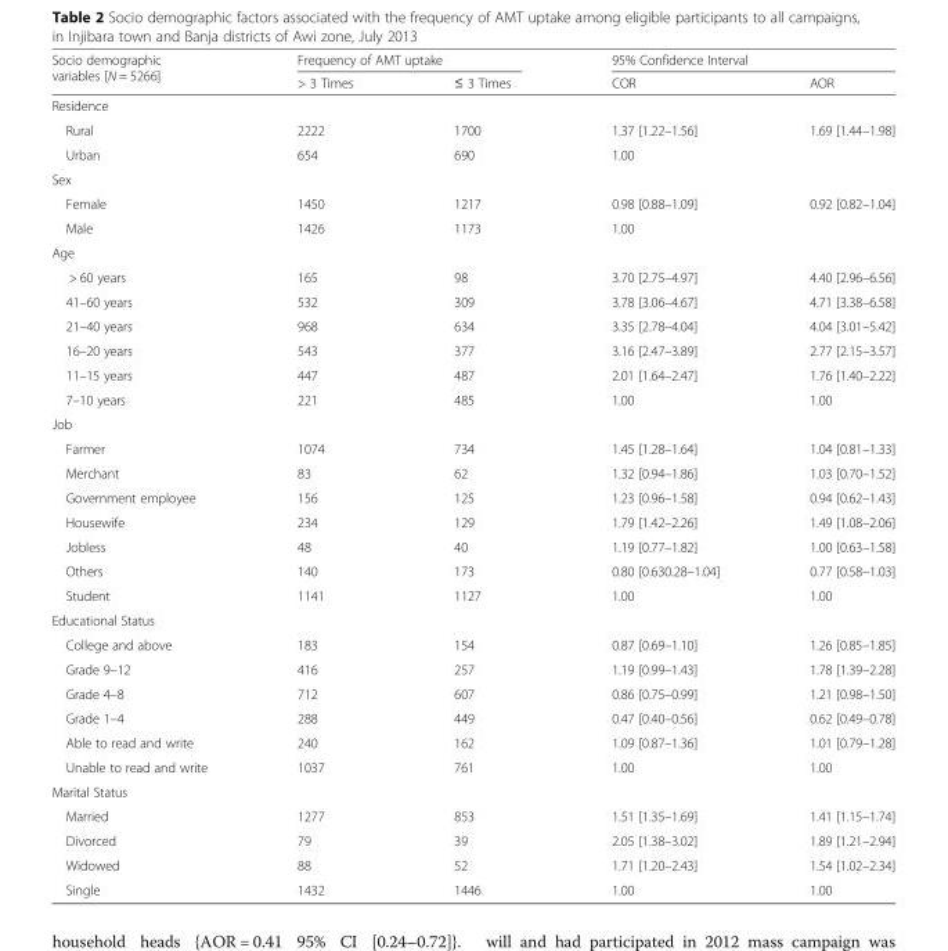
<table><thead><tr><td rowspan="2">Socio demographic variables [N = 5266]</td><td colspan="2">Frequency of AMT uptake</td><td colspan="2">95% Confidence Interval</td></tr><tr><td>&gt; 3 Times</td><td>≤ 3 Times</td><td>COR</td><td>AOR</td></tr></thead><tbody><tr><td colspan="5">Residence</td></tr><tr><td>Rural</td><td>2222</td><td>1700</td><td>1.37 [1.22–1.56]</td><td>1.69 [1.44–1.98]</td></tr><tr><td>Urban</td><td>654</td><td>690</td><td>1.00</td><td></td></tr><tr><td colspan="5">Sex</td></tr><tr><td>Female</td><td>1450</td><td>1217</td><td>0.98 [0.88–1.09]</td><td>0.92 [0.82–1.04]</td></tr><tr><td>Male</td><td>1426</td><td>1173</td><td>1.00</td><td></td></tr><tr><td colspan="5">Age</td></tr><tr><td>&gt; 60 years</td><td>165</td><td>98</td><td>3.70 [2.75–4.97]</td><td>4.40 [2.96–6.56]</td></tr><tr><td>41–60 years</td><td>532</td><td>309</td><td>3.78 [3.06–4.67]</td><td>4.71 [3.38–6.58]</td></tr><tr><td>21–40 years</td><td>968</td><td>634</td><td>3.35 [2.78–4.04]</td><td>4.04 [3.01–5.42]</td></tr><tr><td>16–20 years</td><td>543</td><td>377</td><td>3.16 [2.47–3.89]</td><td>2.77 [2.15–3.57]</td></tr><tr><td>11–15 years</td><td>447</td><td>487</td><td>2.01 [1.64–2.47]</td><td>1.76 [1.40–2.22]</td></tr><tr><td>7–10 years</td><td>221</td><td>485</td><td>1.00</td><td>1.00</td></tr><tr><td colspan="5">Job</td></tr><tr><td>Farmer</td><td>1074</td><td>734</td><td>1.45 [1.28–1.64]</td><td>1.04 [0.81–1.33]</td></tr><tr><td>Merchant</td><td>83</td><td>62</td><td>1.32 [0.94–1.86]</td><td>1.03 [0.70–1.52]</td></tr><tr><td>Government employee</td><td>156</td><td>125</td><td>1.23 [0.96–1.58]</td><td>0.94 [0.62–1.43]</td></tr><tr><td>Housewife</td><td>234</td><td>129</td><td>1.79 [1.42–2.26]</td><td>1.49 [1.08–2.06]</td></tr><tr><td>Jobless</td><td>48</td><td>40</td><td>1.19 [0.77–1.82]</td><td>1.00 [0.63–1.58]</td></tr><tr><td>Others</td><td>140</td><td>173</td><td>0.80 [0.630.28–1.04]</td><td>0.77 [0.58–1.03]</td></tr><tr><td>Student</td><td>1141</td><td>1127</td><td>1.00</td><td>1.00</td></tr><tr><td colspan="5">Educational Status</td></tr><tr><td>College and above</td><td>183</td><td>154</td><td>0.87 [0.69–1.10]</td><td>1.26 [0.85–1.85]</td></tr><tr><td>Grade 9–12</td><td>416</td><td>257</td><td>1.19 [0.99–1.43]</td><td>1.78 [1.39–2.28]</td></tr><tr><td>Grade 4–8</td><td>712</td><td>607</td><td>0.86 [0.75–0.99]</td><td>1.21 [0.98–1.50]</td></tr><tr><td>Grade 1–4</td><td>288</td><td>449</td><td>0.47 [0.40–0.56]</td><td>0.62 [0.49–0.78]</td></tr><tr><td>Able to read and write</td><td>240</td><td>162</td><td>1.09 [0.87–1.36]</td><td>1.01 [0.79–1.28]</td></tr><tr><td>Unable to read and write</td><td>1037</td><td>761</td><td>1.00</td><td>1.00</td></tr><tr><td colspan="5">Marital Status</td></tr><tr><td>Married</td><td>1277</td><td>853</td><td>1.51 [1.35–1.69]</td><td>1.41 [1.15–1.74]</td></tr><tr><td>Divorced</td><td>79</td><td>39</td><td>2.05 [1.38–3.02]</td><td>1.89 [1.21–2.94]</td></tr><tr><td>Widowed</td><td>88</td><td>52</td><td>1.71 [1.20–2.43]</td><td>1.54 [1.02–2.34]</td></tr><tr><td>Single</td><td>1432</td><td>1446</td><td>1.00</td><td>1.00</td></tr></tbody></table>